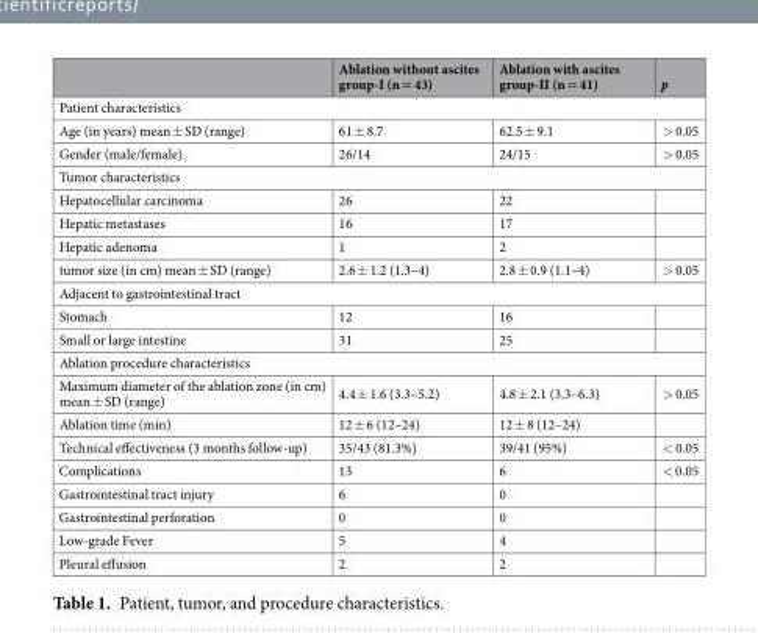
<table><thead><tr><td></td><td>Ablation without ascites group-I (n = 43)</td><td>Ablation with ascites group-II (n = 41)</td><td>p</td></tr></thead><tbody><tr><td colspan="4">Patient characteristics</td></tr><tr><td>Age (in years) mean ± SD (range)</td><td>61 ± 8.7</td><td>62.5 ± 9.1</td><td>&gt; 0.05</td></tr><tr><td>Gender (male/female)</td><td>26/14</td><td>24/15</td><td>&gt; 0.05</td></tr><tr><td colspan="4">Tumor characteristics</td></tr><tr><td>Hepatocellular carcinoma</td><td>26</td><td>22</td><td></td></tr><tr><td>Hepatic metastases</td><td>16</td><td>17</td><td></td></tr><tr><td>Hepatic adenoma</td><td>1</td><td>2</td><td></td></tr><tr><td>tumor size (in cm) mean ± SD (range)</td><td>2.6 ± 1.2 (1.3–4)</td><td>2.8 ± 0.9 (1.1–4)</td><td>&gt; 0.05</td></tr><tr><td colspan="4">Adjacent to gastrointestinal tract</td></tr><tr><td>Stomach</td><td>12</td><td>16</td><td></td></tr><tr><td>Small or large intestine</td><td>31</td><td>25</td><td></td></tr><tr><td colspan="4">Ablation procedure characteristics</td></tr><tr><td>Maximum diameter of the ablation zone (in cm) mean ± SD (range)</td><td>4.4 ± 1.6 (3.3–5.2)</td><td>4.8 ± 2.1 (3.3–6.3)</td><td>&gt; 0.05</td></tr><tr><td>Ablation time (min)</td><td>12 ± 6 (12–24)</td><td>12 ± 8 (12–24)</td><td></td></tr><tr><td>Technical effectiveness (3 months follow-up)</td><td>35/43 (81.3%)</td><td>39/41 (95%)</td><td>&lt; 0.05</td></tr><tr><td>Complications</td><td>13</td><td>6</td><td>&lt; 0.05</td></tr><tr><td>Gastrointestinal tract injury</td><td>6</td><td>0</td><td></td></tr><tr><td>Gastrointestinal perforation</td><td>0</td><td>0</td><td></td></tr><tr><td>Low-grade Fever</td><td>5</td><td>4</td><td></td></tr><tr><td>Pleural effusion</td><td>2</td><td>2</td><td></td></tr></tbody></table>